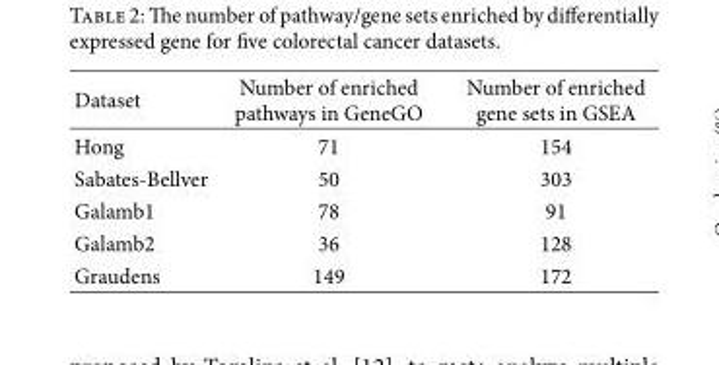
<table><thead><tr><td>Dataset</td><td>Number of enriched pathways in GeneGO</td><td>Number of enriched gene sets in GSEA</td></tr></thead><tbody><tr><td>Hong</td><td>71</td><td>154</td></tr><tr><td>Sabates-Bellver</td><td>50</td><td>303</td></tr><tr><td>Galamb1</td><td>78</td><td>91</td></tr><tr><td>Galamb2</td><td>36</td><td>128</td></tr><tr><td>Graudens</td><td>149</td><td>172</td></tr></tbody></table>